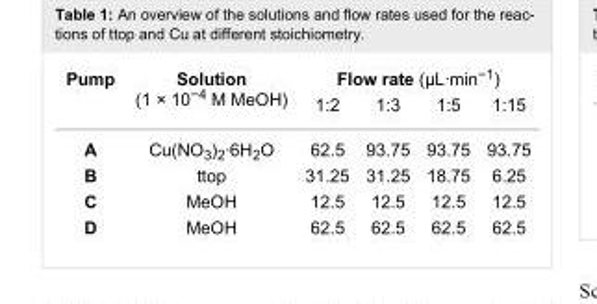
<table><tbody><tr><td rowspan="2">Pump</td><td rowspan="2">Solution (1 × 10<sup>−4</sup> M MeOH)</td><td colspan="4">Flow rate (µL·min<sup>−1</sup>)</td></tr><tr><td>1:2</td><td>1:3</td><td>1:5</td><td>1:15</td></tr><tr><td>A</td><td>Cu(NO<sub>3</sub>)<sub>2</sub>·6H<sub>2</sub>O</td><td>62.5</td><td>93.75</td><td>93.75</td><td>93.75</td></tr><tr><td>B</td><td>ttop</td><td>31.25</td><td>31.25</td><td>18.75</td><td>6.25</td></tr><tr><td>C</td><td>MeOH</td><td>12.5</td><td>12.5</td><td>12.5</td><td>12.5</td></tr><tr><td>D</td><td>MeOH</td><td>62.5</td><td>62.5</td><td>62.5</td><td>62.5</td></tr></tbody></table>